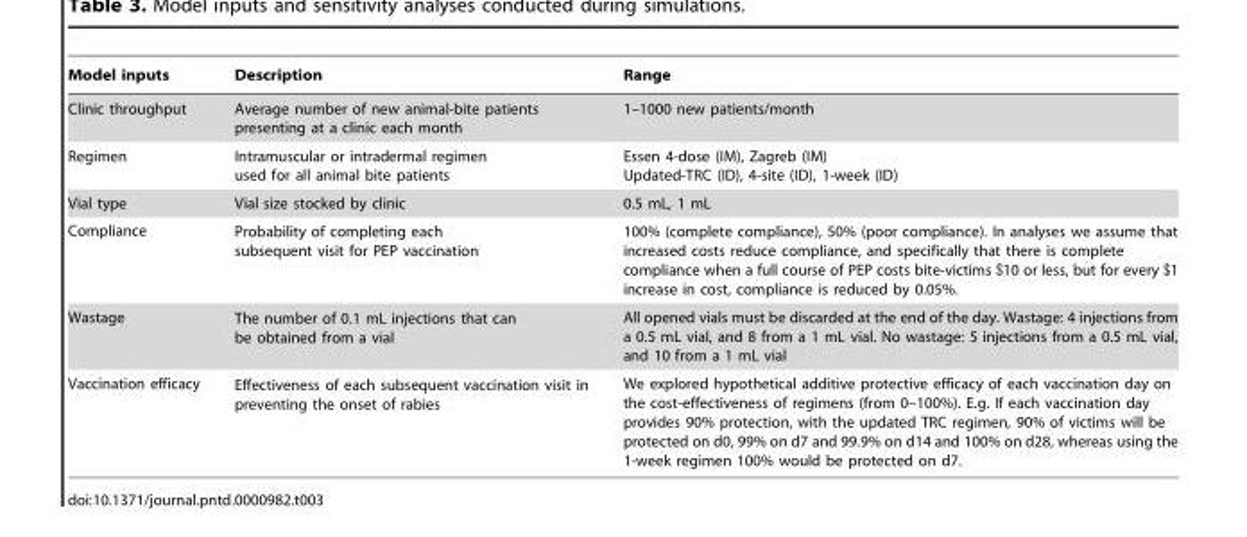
<table><thead><tr><td>Model inputs</td><td>Description</td><td>Range</td></tr></thead><tbody><tr><td>Clinic throughput</td><td>Average number of new animal-bite patients presenting at a clinic each month</td><td>1–1000 new patients/month</td></tr><tr><td>Regimen</td><td>Intramuscular or intradermal regimen used for all animal bite patients</td><td>Essen 4-dose (IM), Zagreb (IM) Updated-TRC (ID), 4-site (ID), 1-week (ID)</td></tr><tr><td>Vial type</td><td>Vial size stocked by clinic</td><td>0.5 mL, 1 mL</td></tr><tr><td>Compliance</td><td>Probability of completing each subsequent visit for PEP vaccination</td><td>100% (complete compliance), 50% (poor compliance). In analyses we assume that increased costs reduce compliance, and specifically that there is complete compliance when a full course of PEP costs bite-victims $10 or less, but for every $1 increase in cost, compliance is reduced by 0.05%.</td></tr><tr><td>Wastage</td><td>The number of 0.1 mL injections that can be obtained from a vial</td><td>All opened vials must be discarded at the end of the day. Wastage: 4 injections from a 0.5 mL vial, and 8 from a 1 mL vial. No wastage: 5 injections from a 0.5 mL vial, and 10 from a 1 mL vial</td></tr><tr><td>Vaccination efficacy</td><td>Effectiveness of each subsequent vaccination visit in preventing the onset of rabies</td><td>We explored hypothetical additive protective efficacy of each vaccination day on the cost-effectiveness of regimens (from 0–100%). E.g. If each vaccination day provides 90% protection, with the updated TRC regimen, 90% of victims will be protected on d0, 99% on d7 and 99.9% on d14 and 100% on d28, whereas using the 1-week regimen 100% would be protected on d7.</td></tr></tbody></table>